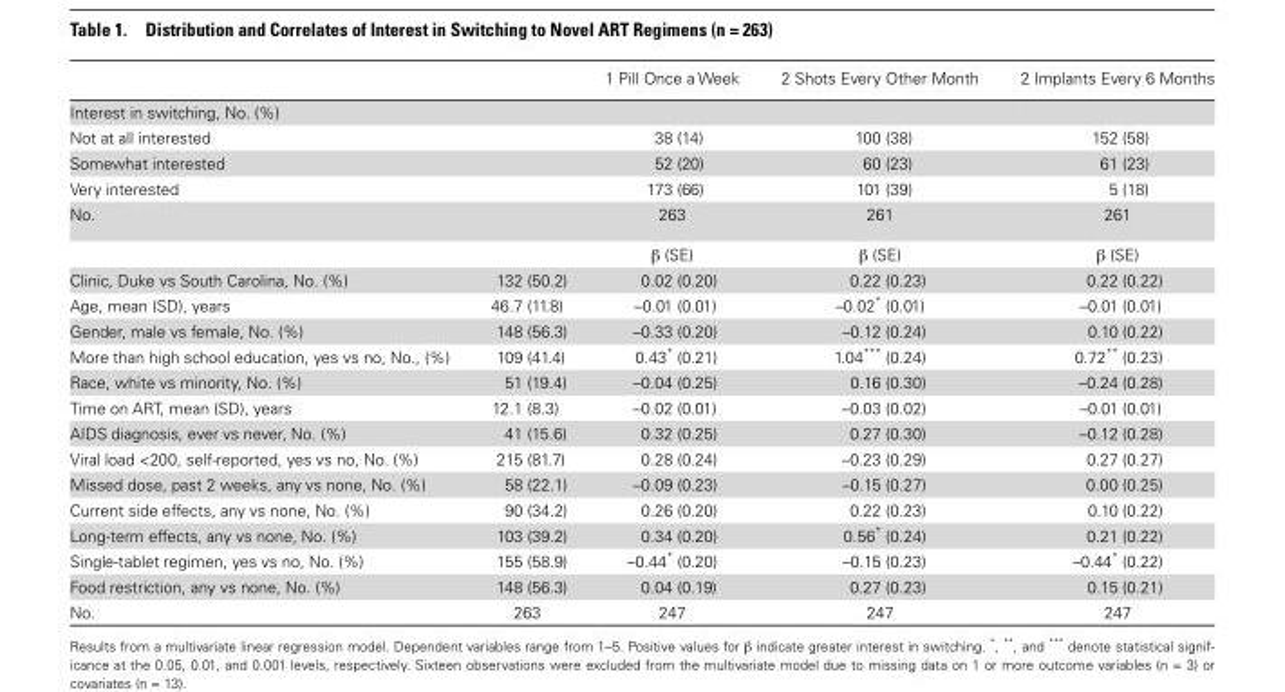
<table><thead><tr><td></td><td></td><td>1 Pill Once a Week</td><td>2 Shots Every Other Month</td><td>2 Implants Every 6 Months</td></tr></thead><tbody><tr><td colspan="5">Interest in switching, No. (%)</td></tr><tr><td>Not at all interested</td><td></td><td>38 (14)</td><td>100 (38)</td><td>152 (58)</td></tr><tr><td>Somewhat interested</td><td></td><td>52 (20)</td><td>60 (23)</td><td>61 (23)</td></tr><tr><td>Very interested</td><td></td><td>173 (66)</td><td>101 (39)</td><td>5 (18)</td></tr><tr><td rowspan="2">No.</td><td></td><td>263</td><td>261</td><td>261</td></tr><tr><td></td><td>β (SE)</td><td>β (SE)</td><td>β (SE)</td></tr><tr><td>Clinic, Duke vs South Carolina, No. (%)</td><td>132 (50.2)</td><td>0.02 (0.20)</td><td>0.22 (0.23)</td><td>0.22 (0.22)</td></tr><tr><td>Age, mean (SD), years</td><td>46.7 (11.8)</td><td>–0.01 (0.01)</td><td>–0.02* (0.01)</td><td>–0.01 (0.01)</td></tr><tr><td>Gender, male vs female, No. (%)</td><td>148 (56.3)</td><td>–0.33 (0.20)</td><td>–0.12 (0.24)</td><td>0.10 (0.22)</td></tr><tr><td>More than high school education, yes vs no, No., (%)</td><td>109 (41.4)</td><td>0.43* (0.21)</td><td>1.04*** (0.24)</td><td>0.72** (0.23)</td></tr><tr><td>Race, white vs minority, No. (%)</td><td>51 (19.4)</td><td>–0.04 (0.25)</td><td>0.16 (0.30)</td><td>–0.24 (0.28)</td></tr><tr><td>Time on ART, mean (SD), years</td><td>12.1 (8.3)</td><td>–0.02 (0.01)</td><td>–0.03 (0.02)</td><td>–0.01 (0.01)</td></tr><tr><td>AIDS diagnosis, ever vs never, No. (%)</td><td>41 (15.6)</td><td>0.32 (0.25)</td><td>0.27 (0.30)</td><td>–0.12 (0.28)</td></tr><tr><td>Viral load &lt;200, self-reported, yes vs no, No. (%)</td><td>215 (81.7)</td><td>0.28 (0.24)</td><td>–0.23 (0.29)</td><td>0.27 (0.27)</td></tr><tr><td>Missed dose, past 2 weeks, any vs none, No. (%)</td><td>58 (22.1)</td><td>–0.09 (0.23)</td><td>–0.15 (0.27)</td><td>0.00 (0.25)</td></tr><tr><td>Current side effects, any vs none, No. (%)</td><td>90 (34.2)</td><td>0.26 (0.20)</td><td>0.22 (0.23)</td><td>0.10 (0.22)</td></tr><tr><td>Long-term effects, any vs none, No. (%)</td><td>103 (39.2)</td><td>0.34 (0.20)</td><td>0.56* (0.24)</td><td>0.21 (0.22)</td></tr><tr><td>Single-tablet regimen, yes vs no, No. (%)</td><td>155 (58.9)</td><td>–0.44* (0.20)</td><td>–0.15 (0.23)</td><td>–0.44* (0.22)</td></tr><tr><td>Food restriction, any vs none, No. (%)</td><td>148 (56.3)</td><td>0.04 (0.19)</td><td>0.27 (0.23)</td><td>0.15 (0.21)</td></tr><tr><td>No.</td><td>263</td><td>247</td><td>247</td><td>247</td></tr></tbody></table>